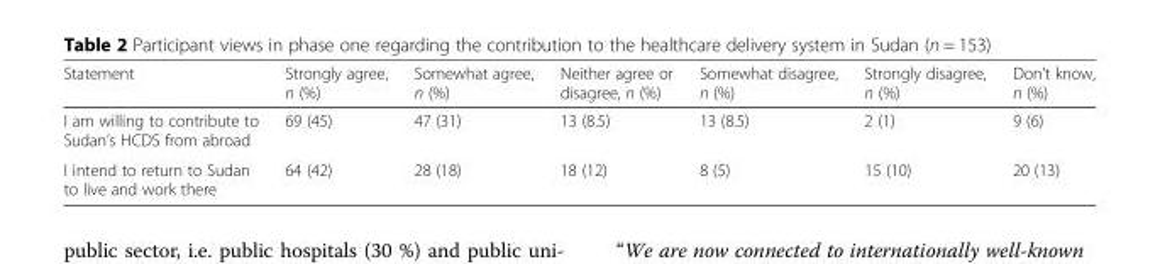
<table><thead><tr><td>Statement</td><td>Strongly agree, n (%)</td><td>Somewhat agree, n (%)</td><td>Neither agree or disagree, n (%)</td><td>Somewhat disagree, n (%)</td><td>Strongly disagree, n (%)</td><td>Don’t know, n (%)</td></tr></thead><tbody><tr><td>I am willing to contribute to Sudan’s HCDS from abroad</td><td>69 (45)</td><td>47 (31)</td><td>13 (8.5)</td><td>13 (8.5)</td><td>2 (1)</td><td>9 (6)</td></tr><tr><td>I intend to return to Sudan to live and work there</td><td>64 (42)</td><td>28 (18)</td><td>18 (12)</td><td>8 (5)</td><td>15 (10)</td><td>20 (13)</td></tr></tbody></table>